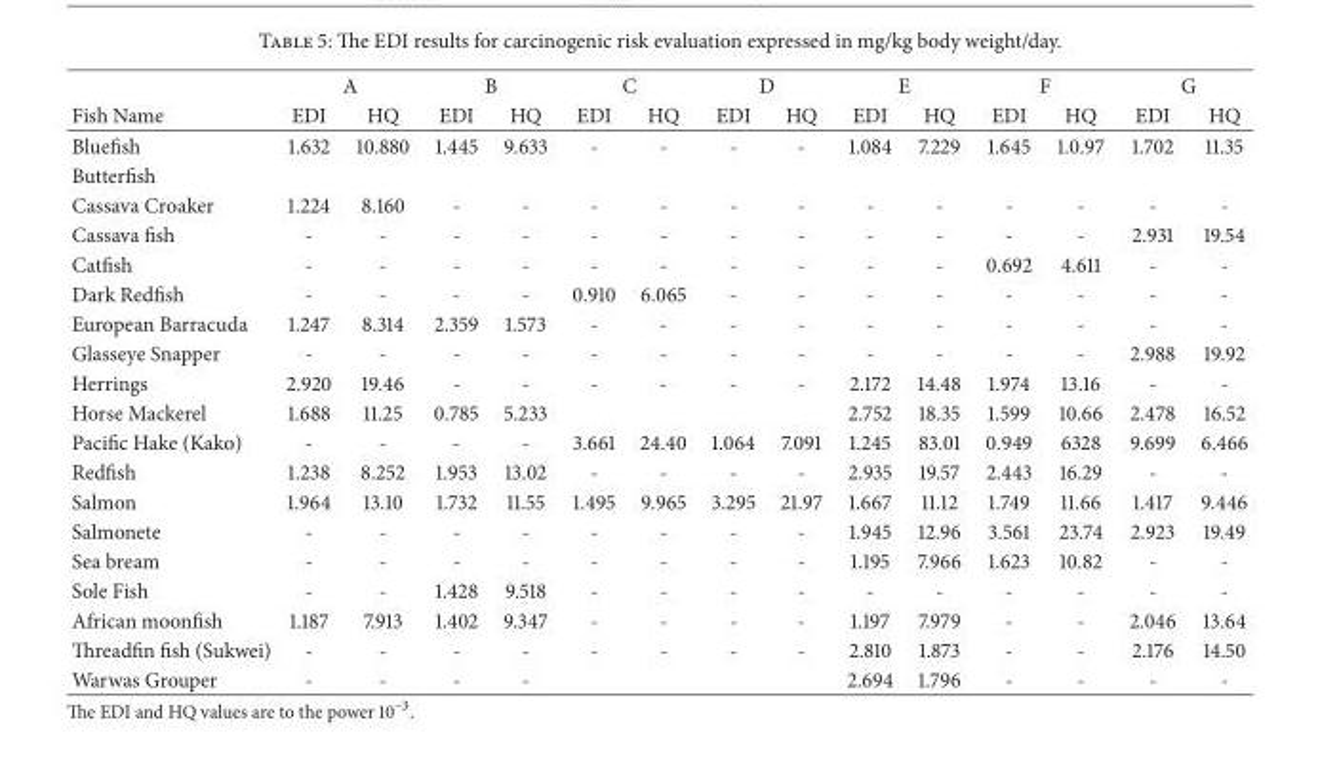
<table><thead><tr><td rowspan="2">Fish Name</td><td colspan="2">A</td><td colspan="2">B</td><td colspan="2">C</td><td colspan="2">D</td><td colspan="2">E</td><td colspan="2">F</td><td colspan="2">G</td></tr><tr><td>EDI</td><td>HQ</td><td>EDI</td><td>HQ</td><td>EDI</td><td>HQ</td><td>EDI</td><td>HQ</td><td>EDI</td><td>HQ</td><td>EDI</td><td>HQ</td><td>EDI</td><td>HQ</td></tr></thead><tbody><tr><td>Bluefish</td><td>1.632</td><td>10.880</td><td>1.445</td><td>9.633</td><td>-</td><td>-</td><td>-</td><td>-</td><td>1.084</td><td>7.229</td><td>1.645</td><td>1.0.97</td><td>1.702</td><td>11.35</td></tr><tr><td colspan="15">Butterfish</td></tr><tr><td>Cassava Croaker</td><td>1.224</td><td>8.160</td><td>-</td><td>-</td><td>-</td><td>-</td><td>-</td><td>-</td><td>-</td><td>-</td><td>-</td><td>-</td><td>-</td><td>-</td></tr><tr><td>Cassava fish</td><td>-</td><td>-</td><td>-</td><td>-</td><td>-</td><td>-</td><td>-</td><td>-</td><td>-</td><td>-</td><td>-</td><td>-</td><td>2.931</td><td>19.54</td></tr><tr><td>Catfish</td><td>-</td><td>-</td><td>-</td><td>-</td><td>-</td><td>-</td><td>-</td><td>-</td><td>-</td><td>-</td><td>0.692</td><td>4.611</td><td>-</td><td>-</td></tr><tr><td>Dark Redfish</td><td>-</td><td>-</td><td>-</td><td>-</td><td>0.910</td><td>6.065</td><td>-</td><td>-</td><td>-</td><td>-</td><td>-</td><td>-</td><td>-</td><td>-</td></tr><tr><td>European Barracuda</td><td>1.247</td><td>8.314</td><td>2.359</td><td>1.573</td><td>-</td><td>-</td><td>-</td><td>-</td><td>-</td><td>-</td><td>-</td><td>-</td><td>-</td><td>-</td></tr><tr><td>Glasseye Snapper</td><td>-</td><td>-</td><td>-</td><td>-</td><td>-</td><td>-</td><td>-</td><td>-</td><td>-</td><td>-</td><td>-</td><td>-</td><td>2.988</td><td>19.92</td></tr><tr><td>Herrings</td><td>2.920</td><td>19.46</td><td>-</td><td>-</td><td>-</td><td>-</td><td>-</td><td>-</td><td>2.172</td><td>14.48</td><td>1.974</td><td>13.16</td><td>-</td><td>-</td></tr><tr><td>Horse Mackerel</td><td>1.688</td><td>11.25</td><td>0.785</td><td>5.233</td><td></td><td></td><td></td><td></td><td>2.752</td><td>18.35</td><td>1.599</td><td>10.66</td><td>2.478</td><td>16.52</td></tr><tr><td>Pacific Hake (Kako)</td><td>-</td><td>-</td><td>-</td><td>-</td><td>3.661</td><td>24.40</td><td>1.064</td><td>7.091</td><td>1.245</td><td>83.01</td><td>0.949</td><td>6328</td><td>9.699</td><td>6.466</td></tr><tr><td>Redfish</td><td>1.238</td><td>8.252</td><td>1.953</td><td>13.02</td><td>-</td><td>-</td><td>-</td><td>-</td><td>2.935</td><td>19.57</td><td>2.443</td><td>16.29</td><td>-</td><td>-</td></tr><tr><td>Salmon</td><td>1.964</td><td>13.10</td><td>1.732</td><td>11.55</td><td>1.495</td><td>9.965</td><td>3.295</td><td>21.97</td><td>1.667</td><td>11.12</td><td>1.749</td><td>11.66</td><td>1.417</td><td>9.446</td></tr><tr><td>Salmonete</td><td>-</td><td>-</td><td>-</td><td>-</td><td>-</td><td>-</td><td>-</td><td>-</td><td>1.945</td><td>12.96</td><td>3.561</td><td>23.74</td><td>2.923</td><td>19.49</td></tr><tr><td>Sea bream</td><td>-</td><td>-</td><td>-</td><td>-</td><td>-</td><td>-</td><td>-</td><td>-</td><td>1.195</td><td>7.966</td><td>1.623</td><td>10.82</td><td>-</td><td>-</td></tr><tr><td>Sole Fish</td><td>-</td><td>-</td><td>1.428</td><td>9.518</td><td>-</td><td>-</td><td>-</td><td>-</td><td>-</td><td>-</td><td>-</td><td>-</td><td>-</td><td>-</td></tr><tr><td>African moonfish</td><td>1.187</td><td>7.913</td><td>1.402</td><td>9.347</td><td>-</td><td>-</td><td>-</td><td>-</td><td>1.197</td><td>7.979</td><td>-</td><td>-</td><td>2.046</td><td>13.64</td></tr><tr><td>Threadfin fish (Sukwei)</td><td>-</td><td>-</td><td>-</td><td>-</td><td>-</td><td>-</td><td>-</td><td>-</td><td>2.810</td><td>1.873</td><td>-</td><td>-</td><td>2.176</td><td>14.50</td></tr><tr><td>Warwas Grouper</td><td>-</td><td>-</td><td>-</td><td>-</td><td></td><td></td><td></td><td></td><td>2.694</td><td>1.796</td><td>-</td><td>-</td><td>-</td><td>-</td></tr></tbody></table>